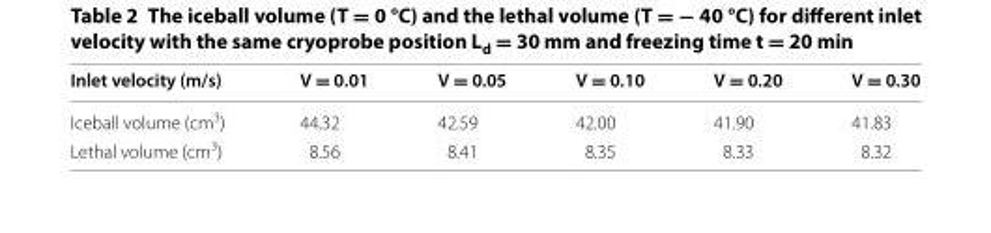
<table><thead><tr><td>Inlet velocity (m/s)</td><td>V = 0.01</td><td>V = 0.05</td><td>V = 0.10</td><td>V = 0.20</td><td>V = 0.30</td></tr></thead><tbody><tr><td>Iceball volume (cm<sup>3</sup>)</td><td>44.32</td><td>42.59</td><td>42.00</td><td>41.90</td><td>41.83</td></tr><tr><td>Lethal volume (cm<sup>3</sup>)</td><td>8.56</td><td>8.41</td><td>8.35</td><td>8.33</td><td>8.32</td></tr></tbody></table>